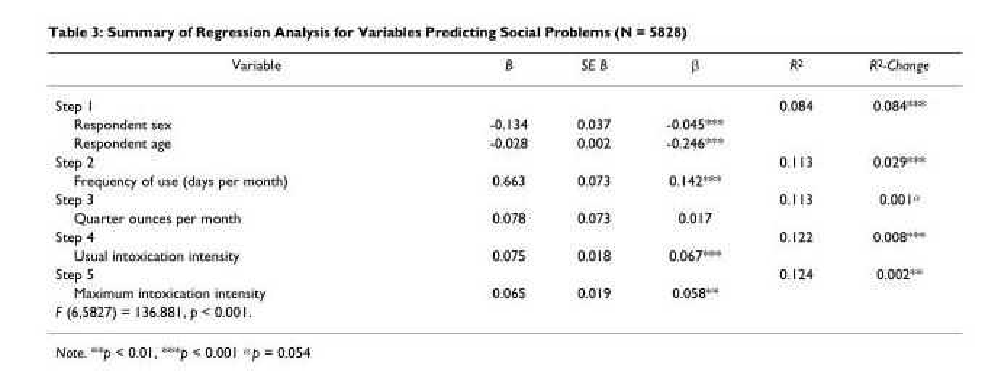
<table><thead><tr><td>Variable</td><td>B</td><td>SE B</td><td>β</td><td>R<sup>2</sup></td><td>R<sup>2</sup>-Change</td></tr></thead><tbody><tr><td>Step 1</td><td></td><td></td><td></td><td>0.084</td><td>0.084***</td></tr><tr><td>Respondent sex</td><td>-0.134</td><td>0.037</td><td>-0.045***</td><td></td><td></td></tr><tr><td>Respondent age</td><td>-0.028</td><td>0.002</td><td>-0.246***</td><td></td><td></td></tr><tr><td>Step 2</td><td></td><td></td><td></td><td>0.113</td><td>0.029***</td></tr><tr><td>Frequency of use (days per month)</td><td>0.663</td><td>0.073</td><td>0.142***</td><td></td><td></td></tr><tr><td>Step 3</td><td></td><td></td><td></td><td>0.113</td><td>0.001<sup>α</sup></td></tr><tr><td>Quarter ounces per month</td><td>0.078</td><td>0.073</td><td>0.017</td><td></td><td></td></tr><tr><td>Step 4</td><td></td><td></td><td></td><td>0.122</td><td>0.008***</td></tr><tr><td>Usual intoxication intensity</td><td>0.075</td><td>0.018</td><td>0.067***</td><td></td><td></td></tr><tr><td>Step 5</td><td></td><td></td><td></td><td>0.124</td><td>0.002**</td></tr><tr><td>Maximum intoxication intensity</td><td>0.065</td><td>0.019</td><td>0.058**</td><td></td><td></td></tr><tr><td>F (6,5827) = 136.881, p &lt; 0.001.</td><td></td><td></td><td></td><td></td><td></td></tr></tbody></table>